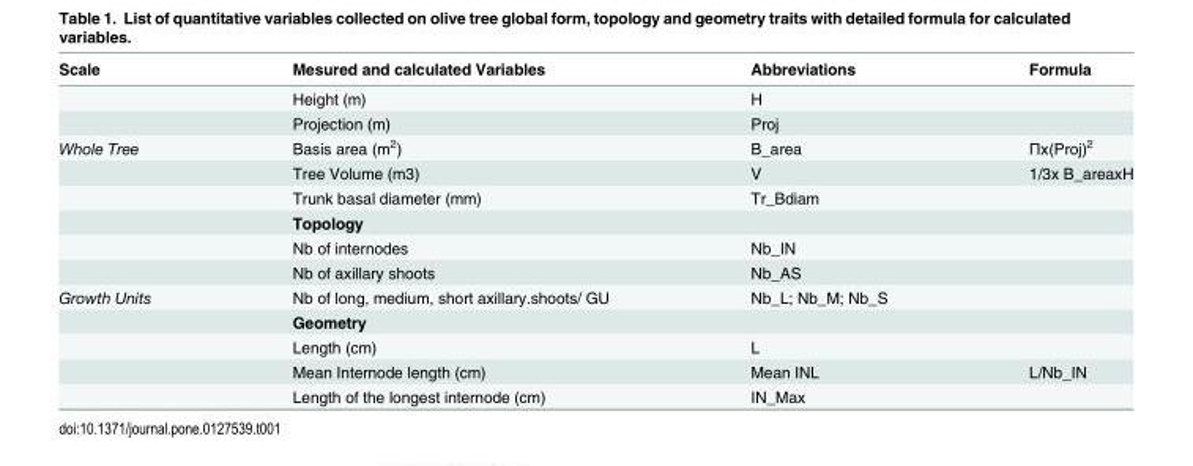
<table><thead><tr><td>Scale</td><td>Mesured and calculated Variables</td><td>Abbreviations</td><td>Formula</td></tr></thead><tbody><tr><td></td><td>Height (m)</td><td>H</td><td></td></tr><tr><td></td><td>Projection (m)</td><td>Proj</td><td></td></tr><tr><td rowspan="6">Whole Tree</td><td>Basis area (m<sup>2</sup>)</td><td>B_area</td><td>Πx(Proj)<sup>2</sup></td></tr><tr><td>Tree Volume (m3)</td><td>V</td><td>1/3x B_areaxH</td></tr><tr><td>Trunk basal diameter (mm)</td><td>Tr_Bdiam</td><td></td></tr><tr><td>Topology</td><td></td><td></td></tr><tr><td>Nb of internodes</td><td>Nb_IN</td><td></td></tr><tr><td>Nb of axillary shoots</td><td>Nb_AS</td><td></td></tr><tr><td rowspan="5">Growth Units</td><td>Nb of long, medium, short axillary.shoots/ GU</td><td>Nb_L; Nb_M; Nb_S</td><td></td></tr><tr><td>Geometry</td><td></td><td></td></tr><tr><td>Length (cm)</td><td>L</td><td></td></tr><tr><td>Mean Internode length (cm)</td><td>Mean INL</td><td>L/Nb_IN</td></tr><tr><td>Length of the longest internode (cm)</td><td>IN_Max</td><td></td></tr></tbody></table>